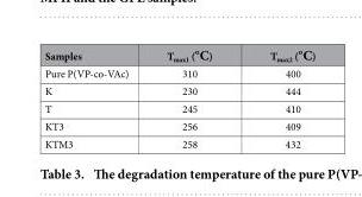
<table><thead><tr><td>Samples</td><td>T<sub>max1</sub> (°C)</td><td>T<sub>max2</sub> (°C)</td></tr></thead><tbody><tr><td>Pure P(VP-co-VAc)</td><td>310</td><td>400</td></tr><tr><td>K</td><td>230</td><td>444</td></tr><tr><td>T</td><td>245</td><td>410</td></tr><tr><td>KT3</td><td>256</td><td>409</td></tr><tr><td>KTM3</td><td>258</td><td>432</td></tr></tbody></table>